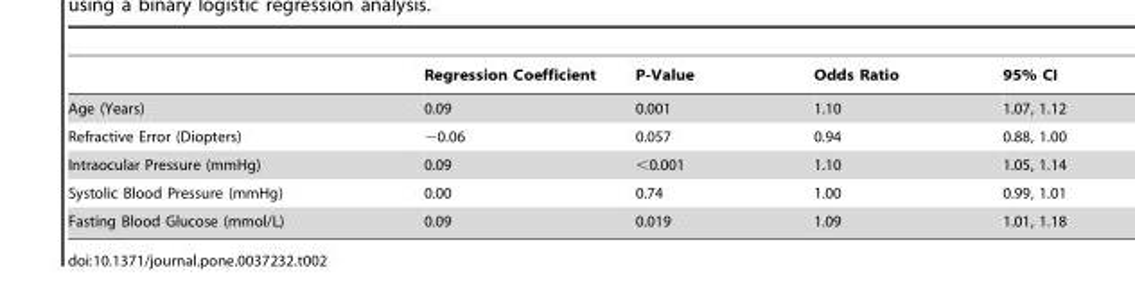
<table><thead><tr><td></td><td>Regression Coefficient</td><td>P-Value</td><td>Odds Ratio</td><td>95% CI</td></tr></thead><tbody><tr><td>Age (Years)</td><td>0.09</td><td>0.001</td><td>1.10</td><td>1.07, 1.12</td></tr><tr><td>Refractive Error (Diopters)</td><td>−0.06</td><td>0.057</td><td>0.94</td><td>0.88, 1.00</td></tr><tr><td>Intraocular Pressure (mmHg)</td><td>0.09</td><td>&lt;0.001</td><td>1.10</td><td>1.05, 1.14</td></tr><tr><td>Systolic Blood Pressure (mmHg)</td><td>0.00</td><td>0.74</td><td>1.00</td><td>0.99, 1.01</td></tr><tr><td>Fasting Blood Glucose (mmol/L)</td><td>0.09</td><td>0.019</td><td>1.09</td><td>1.01, 1.18</td></tr></tbody></table>